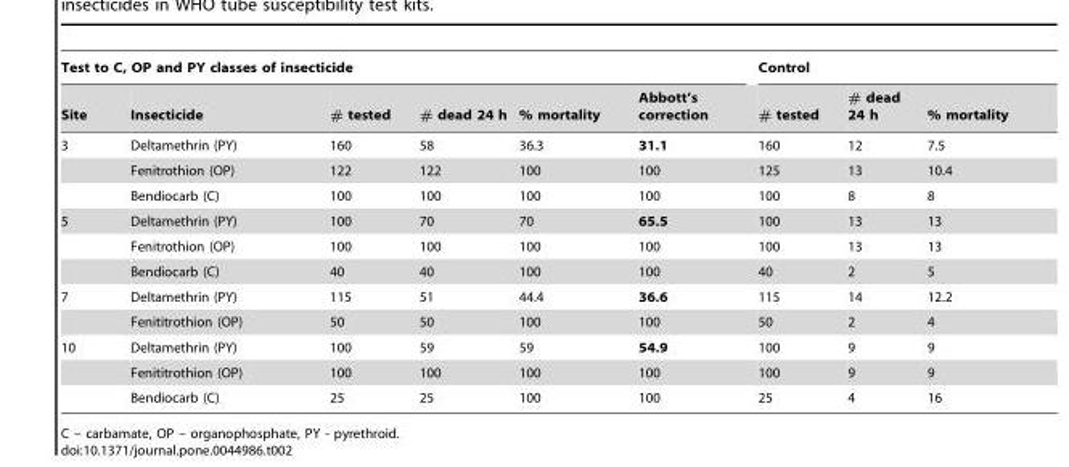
<table><thead><tr><td colspan="6">Test to C, OP and PY classes of insecticide</td><td colspan="3">Control</td></tr><tr><td>Site</td><td>Insecticide</td><td># tested</td><td># dead 24 h</td><td>% mortality</td><td>Abbott’s correction</td><td># tested</td><td># dead 24 h</td><td>% mortality</td></tr></thead><tbody><tr><td rowspan="3">3</td><td>Deltamethrin (PY)</td><td>160</td><td>58</td><td>36.3</td><td>31.1</td><td>160</td><td>12</td><td>7.5</td></tr><tr><td>Fenitrothion (OP)</td><td>122</td><td>122</td><td>100</td><td>100</td><td>125</td><td>13</td><td>10.4</td></tr><tr><td>Bendiocarb (C)</td><td>100</td><td>100</td><td>100</td><td>100</td><td>100</td><td>8</td><td>8</td></tr><tr><td rowspan="3">5</td><td>Deltamethrin (PY)</td><td>100</td><td>70</td><td>70</td><td>65.5</td><td>100</td><td>13</td><td>13</td></tr><tr><td>Fenitrothion (OP)</td><td>100</td><td>100</td><td>100</td><td>100</td><td>100</td><td>13</td><td>13</td></tr><tr><td>Bendiocarb (C)</td><td>40</td><td>40</td><td>100</td><td>100</td><td>40</td><td>2</td><td>5</td></tr><tr><td rowspan="2">7</td><td>Deltamethrin (PY)</td><td>115</td><td>51</td><td>44.4</td><td>36.6</td><td>115</td><td>14</td><td>12.2</td></tr><tr><td>Fenititrothion (OP)</td><td>50</td><td>50</td><td>100</td><td>100</td><td>50</td><td>2</td><td>4</td></tr><tr><td rowspan="3">10</td><td>Deltamethrin (PY)</td><td>100</td><td>59</td><td>59</td><td>54.9</td><td>100</td><td>9</td><td>9</td></tr><tr><td>Fenititrothion (OP)</td><td>100</td><td>100</td><td>100</td><td>100</td><td>100</td><td>9</td><td>9</td></tr><tr><td>Bendiocarb (C)</td><td>25</td><td>25</td><td>100</td><td>100</td><td>25</td><td>4</td><td>16</td></tr></tbody></table>